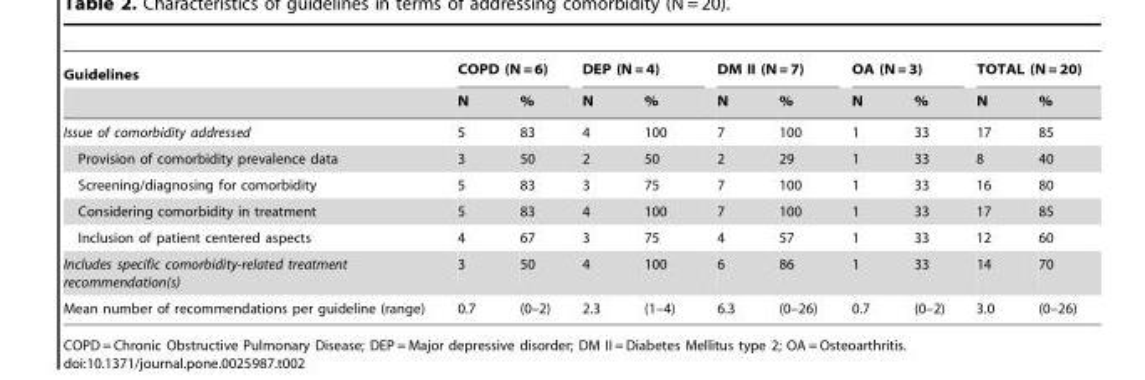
<table><thead><tr><td rowspan="2">Guidelines</td><td colspan="2">COPD (N = 6)</td><td colspan="2">DEP (N = 4)</td><td colspan="2">DM II (N = 7)</td><td colspan="2">OA (N = 3)</td><td colspan="2">TOTAL (N = 20)</td></tr><tr><td>N</td><td>%</td><td>N</td><td>%</td><td>N</td><td>%</td><td>N</td><td>%</td><td>N</td><td>%</td></tr></thead><tbody><tr><td>Issue of comorbidity addressed</td><td>5</td><td>83</td><td>4</td><td>100</td><td>7</td><td>100</td><td>1</td><td>33</td><td>17</td><td>85</td></tr><tr><td>Provision of comorbidity prevalence data</td><td>3</td><td>50</td><td>2</td><td>50</td><td>2</td><td>29</td><td>1</td><td>33</td><td>8</td><td>40</td></tr><tr><td>Screening/diagnosing for comorbidity</td><td>5</td><td>83</td><td>3</td><td>75</td><td>7</td><td>100</td><td>1</td><td>33</td><td>16</td><td>80</td></tr><tr><td>Considering comorbidity in treatment</td><td>5</td><td>83</td><td>4</td><td>100</td><td>7</td><td>100</td><td>1</td><td>33</td><td>17</td><td>85</td></tr><tr><td>Inclusion of patient centered aspects</td><td>4</td><td>67</td><td>3</td><td>75</td><td>4</td><td>57</td><td>1</td><td>33</td><td>12</td><td>60</td></tr><tr><td>Includes specific comorbidity-related treatment recommendation(s)</td><td>3</td><td>50</td><td>4</td><td>100</td><td>6</td><td>86</td><td>1</td><td>33</td><td>14</td><td>70</td></tr><tr><td>Mean number of recommendations per guideline (range)</td><td>0.7</td><td>(0–2)</td><td>2.3</td><td>(1–4)</td><td>6.3</td><td>(0–26)</td><td>0.7</td><td>(0–2)</td><td>3.0</td><td>(0–26)</td></tr></tbody></table>